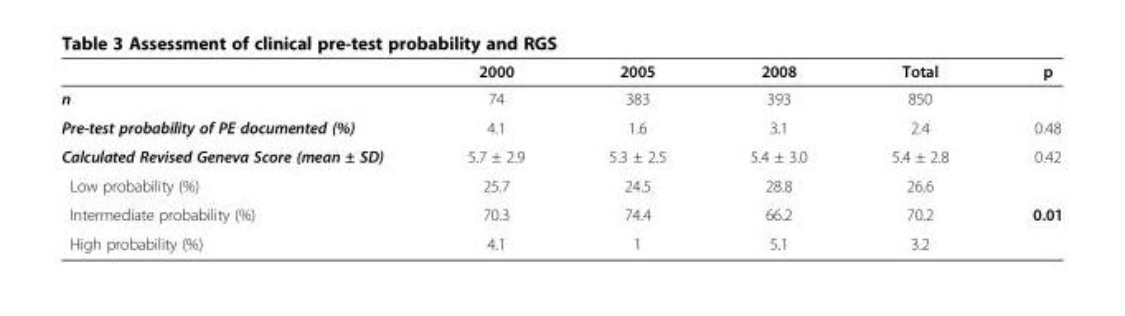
<table><thead><tr><td></td><td>2000</td><td>2005</td><td>2008</td><td>Total</td><td>p</td></tr></thead><tbody><tr><td>n</td><td>74</td><td>383</td><td>393</td><td>850</td><td></td></tr><tr><td>Pre-test probability of PE documented (%)</td><td>4.1</td><td>1.6</td><td>3.1</td><td>2.4</td><td>0.48</td></tr><tr><td>Calculated Revised Geneva Score (mean ± SD)</td><td>5.7 ± 2.9</td><td>5.3 ± 2.5</td><td>5.4 ± 3.0</td><td>5.4 ± 2.8</td><td>0.42</td></tr><tr><td>Low probability (%)</td><td>25.7</td><td>24.5</td><td>28.8</td><td>26.6</td><td rowspan="2">0.01</td></tr><tr><td>Intermediate probability (%)</td><td>70.3</td><td>74.4</td><td>66.2</td><td>70.2</td></tr><tr><td>High probability (%)</td><td>4.1</td><td>1</td><td>5.1</td><td>3.2</td><td></td></tr></tbody></table>